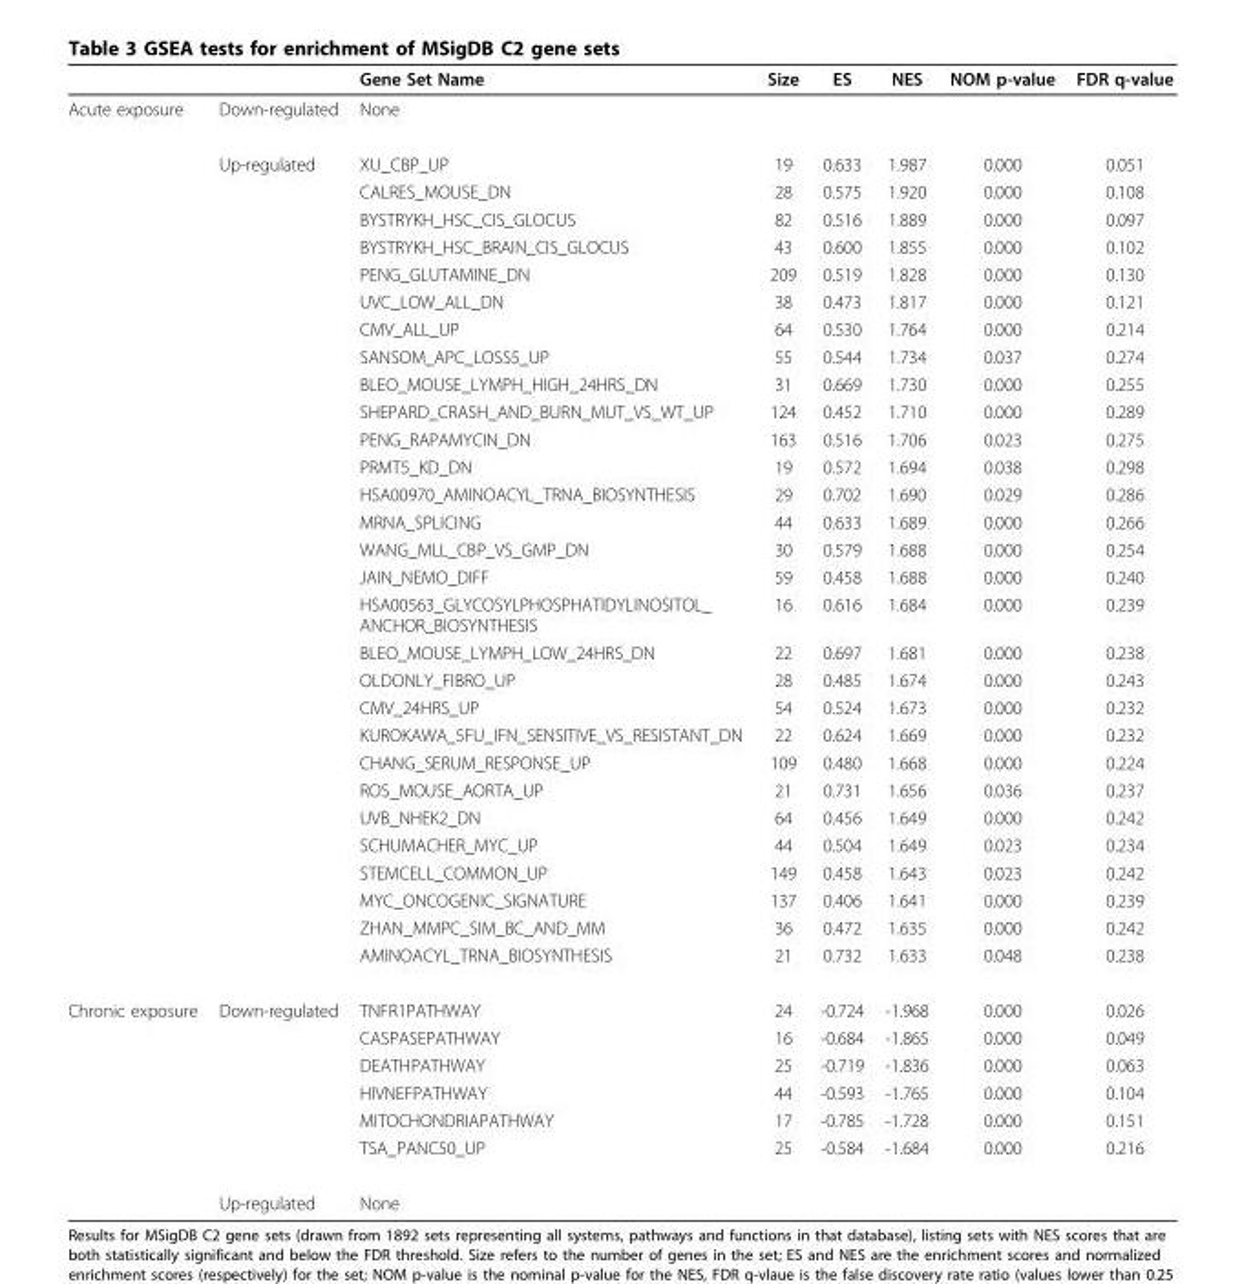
<table><thead><tr><td></td><td></td><td>Gene Set Name</td><td>Size</td><td>ES</td><td>NES</td><td>NOM p-value</td><td>FDR q-value</td></tr></thead><tbody><tr><td rowspan="30">Acute exposure</td><td>Down-regulated</td><td>None</td><td></td><td></td><td></td><td></td><td></td></tr><tr><td>Up-regulated</td><td>XU_CBP_UP</td><td>19</td><td>0.633</td><td>1.987</td><td>0.000</td><td>0.051</td></tr><tr><td></td><td>CALRES_MOUSE_DN</td><td>28</td><td>0.575</td><td>1.920</td><td>0.000</td><td>0.108</td></tr><tr><td></td><td>BYSTRYKH_HSC_CIS_GLOCUS</td><td>82</td><td>0.516</td><td>1.889</td><td>0.000</td><td>0.097</td></tr><tr><td></td><td>BYSTRYKH_HSC_BRAIN_CIS_GLOCUS</td><td>43</td><td>0.600</td><td>1.855</td><td>0.000</td><td>0.102</td></tr><tr><td></td><td>PENG_GLUTAMINE_DN</td><td>209</td><td>0.519</td><td>1.828</td><td>0.000</td><td>0.130</td></tr><tr><td></td><td>UVC_LOW_ALL_DN</td><td>38</td><td>0.473</td><td>1.817</td><td>0.000</td><td>0.121</td></tr><tr><td></td><td>CMV_ALL_UP</td><td>64</td><td>0.530</td><td>1.764</td><td>0.000</td><td>0.214</td></tr><tr><td></td><td>SANSOM_APC_LOSS5_UP</td><td>55</td><td>0.544</td><td>1.734</td><td>0.037</td><td>0.274</td></tr><tr><td></td><td>BLEO_MOUSE_LYMPH_HIGH_24HRS_DN</td><td>31</td><td>0.669</td><td>1.730</td><td>0.000</td><td>0.255</td></tr><tr><td></td><td>SHEPARD_CRASH_AND_BURN_MUT_VS_WT_UP</td><td>124</td><td>0.452</td><td>1.710</td><td>0.000</td><td>0.289</td></tr><tr><td></td><td>PENG_RAPAMYCIN_DN</td><td>163</td><td>0.516</td><td>1.706</td><td>0.023</td><td>0.275</td></tr><tr><td></td><td>PRMT5_KD_DN</td><td>19</td><td>0.572</td><td>1.694</td><td>0.038</td><td>0.298</td></tr><tr><td></td><td>HSA00970_AMINOACYL_TRNA_BIOSYNTHESIS</td><td>29</td><td>0.702</td><td>1.690</td><td>0.029</td><td>0.286</td></tr><tr><td></td><td>MRNA_SPLICING</td><td>44</td><td>0.633</td><td>1.689</td><td>0.000</td><td>0.266</td></tr><tr><td></td><td>WANG_MLL_CBP_VS_GMP_DN</td><td>30</td><td>0.579</td><td>1.688</td><td>0.000</td><td>0.254</td></tr><tr><td></td><td>JAIN_NEMO_DIFF</td><td>59</td><td>0.458</td><td>1.688</td><td>0.000</td><td>0.240</td></tr><tr><td></td><td>HSA00563_GLYCOSYLPHOSPHATIDYLINOSITOL_ ANCHOR_BIOSYNTHESIS</td><td>16</td><td>0.616</td><td>1.684</td><td>0.000</td><td>0.239</td></tr><tr><td></td><td>BLEO_MOUSE_LYMPH_LOW_24HRS_DN</td><td>22</td><td>0.697</td><td>1.681</td><td>0.000</td><td>0.238</td></tr><tr><td></td><td>OLDONLY_FIBRO_UP</td><td>28</td><td>0.485</td><td>1.674</td><td>0.000</td><td>0.243</td></tr><tr><td></td><td>CMV_24HRS_UP</td><td>54</td><td>0.524</td><td>1.673</td><td>0.000</td><td>0.232</td></tr><tr><td></td><td>KUROKAWA_5FU_IFN_SENSITIVE_VS_RESISTANT_DN</td><td>22</td><td>0.624</td><td>1.669</td><td>0.000</td><td>0.232</td></tr><tr><td></td><td>CHANG_SERUM_RESPONSE_UP</td><td>109</td><td>0.480</td><td>1.668</td><td>0.000</td><td>0.224</td></tr><tr><td></td><td>ROS_MOUSE_AORTA_UP</td><td>21</td><td>0.731</td><td>1.656</td><td>0.036</td><td>0.237</td></tr><tr><td></td><td>UVB_NHEK2_DN</td><td>64</td><td>0.456</td><td>1.649</td><td>0.000</td><td>0.242</td></tr><tr><td></td><td>SCHUMACHER_MYC_UP</td><td>44</td><td>0.504</td><td>1.649</td><td>0.023</td><td>0.234</td></tr><tr><td></td><td>STEMCELL_COMMON_UP</td><td>149</td><td>0.458</td><td>1.643</td><td>0.023</td><td>0.242</td></tr><tr><td></td><td>MYC_ONCOGENIC_SIGNATURE</td><td>137</td><td>0.406</td><td>1.641</td><td>0.000</td><td>0.239</td></tr><tr><td></td><td>ZHAN_MMPC_SIM_BC_AND_MM</td><td>36</td><td>0.472</td><td>1.635</td><td>0.000</td><td>0.242</td></tr><tr><td></td><td>AMINOACYL_TRNA_BIOSYNTHESIS</td><td>21</td><td>0.732</td><td>1.633</td><td>0.048</td><td>0.238</td></tr><tr><td rowspan="7">Chronic exposure</td><td>Down-regulated</td><td>TNFR1PATHWAY</td><td>24</td><td>-0.724</td><td>-1.968</td><td>0.000</td><td>0.026</td></tr><tr><td></td><td>CASPASEPATHWAY</td><td>16</td><td>-0.684</td><td>-1.865</td><td>0.000</td><td>0.049</td></tr><tr><td></td><td>DEATHPATHWAY</td><td>25</td><td>-0.719</td><td>-1.836</td><td>0.000</td><td>0.063</td></tr><tr><td></td><td>HIVNEFPATHWAY</td><td>44</td><td>-0.593</td><td>-1.765</td><td>0.000</td><td>0.104</td></tr><tr><td></td><td>MITOCHONDRIAPATHWAY</td><td>17</td><td>-0.785</td><td>-1.728</td><td>0.000</td><td>0.151</td></tr><tr><td></td><td>TSA_PANC50_UP</td><td>25</td><td>-0.584</td><td>-1.684</td><td>0.000</td><td>0.216</td></tr><tr><td>Up-regulated</td><td>None</td><td></td><td></td><td></td><td></td><td></td></tr></tbody></table>